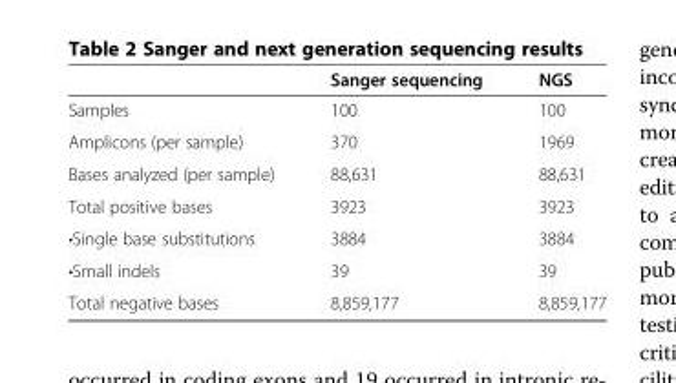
<table><thead><tr><td></td><td>Sanger sequencing</td><td>NGS</td></tr></thead><tbody><tr><td>Samples</td><td>100</td><td>100</td></tr><tr><td>Amplicons (per sample)</td><td>370</td><td>1969</td></tr><tr><td>Bases analyzed (per sample)</td><td>88,631</td><td>88,631</td></tr><tr><td>Total positive bases</td><td>3923</td><td>3923</td></tr><tr><td>•Single base substitutions</td><td>3884</td><td>3884</td></tr><tr><td>•Small indels</td><td>39</td><td>39</td></tr><tr><td>Total negative bases</td><td>8,859,177</td><td>8,859,177</td></tr></tbody></table>